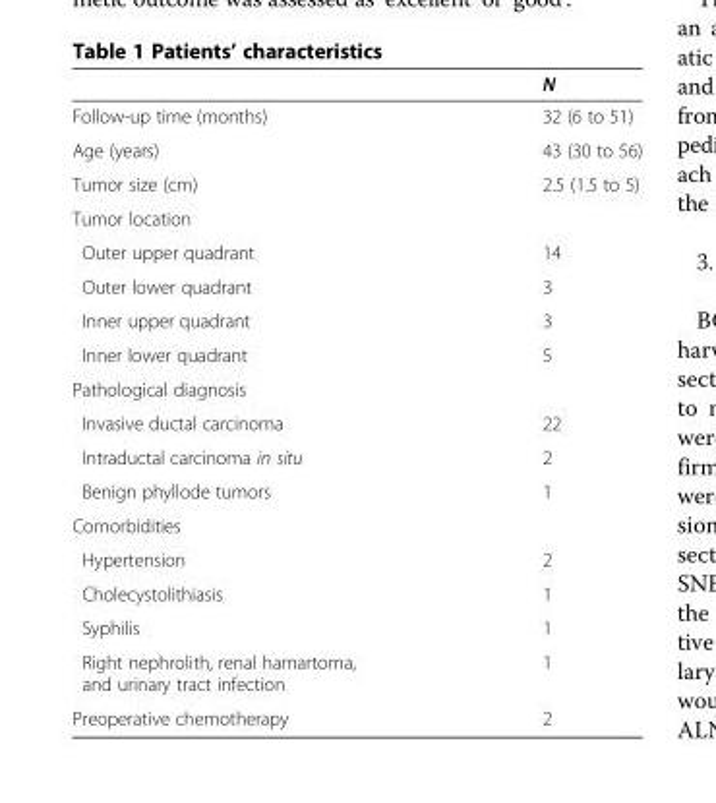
<table><thead><tr><td></td><td>N</td></tr></thead><tbody><tr><td>Follow-up time (months)</td><td>32 (6 to 51)</td></tr><tr><td>Age (years)</td><td>43 (30 to 56)</td></tr><tr><td>Tumor size (cm)</td><td>2.5 (1.5 to 5)</td></tr><tr><td colspan="2">Tumor location</td></tr><tr><td>Outer upper quadrant</td><td>14</td></tr><tr><td>Outer lower quadrant</td><td>3</td></tr><tr><td>Inner upper quadrant</td><td>3</td></tr><tr><td>Inner lower quadrant</td><td>5</td></tr><tr><td colspan="2">Pathological diagnosis</td></tr><tr><td>Invasive ductal carcinoma</td><td>22</td></tr><tr><td>Intraductal carcinoma in situ</td><td>2</td></tr><tr><td>Benign phyllode tumors</td><td>1</td></tr><tr><td colspan="2">Comorbidities</td></tr><tr><td>Hypertension</td><td>2</td></tr><tr><td>Cholecystolithiasis</td><td>1</td></tr><tr><td>Syphilis</td><td>1</td></tr><tr><td>Right nephrolith, renal hamartoma, and urinary tract infection</td><td>1</td></tr><tr><td>Preoperative chemotherapy</td><td>2</td></tr></tbody></table>